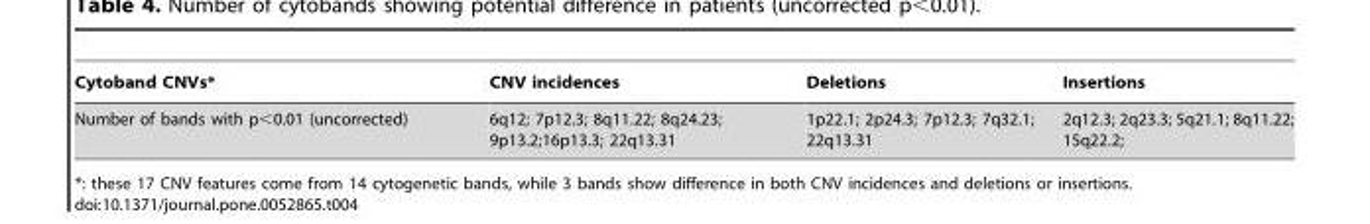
<table><thead><tr><td>Cytoband CNVs*</td><td>CNV incidences</td><td>Deletions</td><td>Insertions</td></tr></thead><tbody><tr><td>Number of bands with p&lt;0.01 (uncorrected)</td><td>6q12; 7p12.3; 8q11.22; 8q24.23; 9p13.2;16p13.3; 22q13.31</td><td>1p22.1; 2p24.3; 7p12.3; 7q32.1; 22q13.31</td><td>2q12.3; 2q23.3; 5q21.1; 8q11.22; 15q22.2;</td></tr></tbody></table>